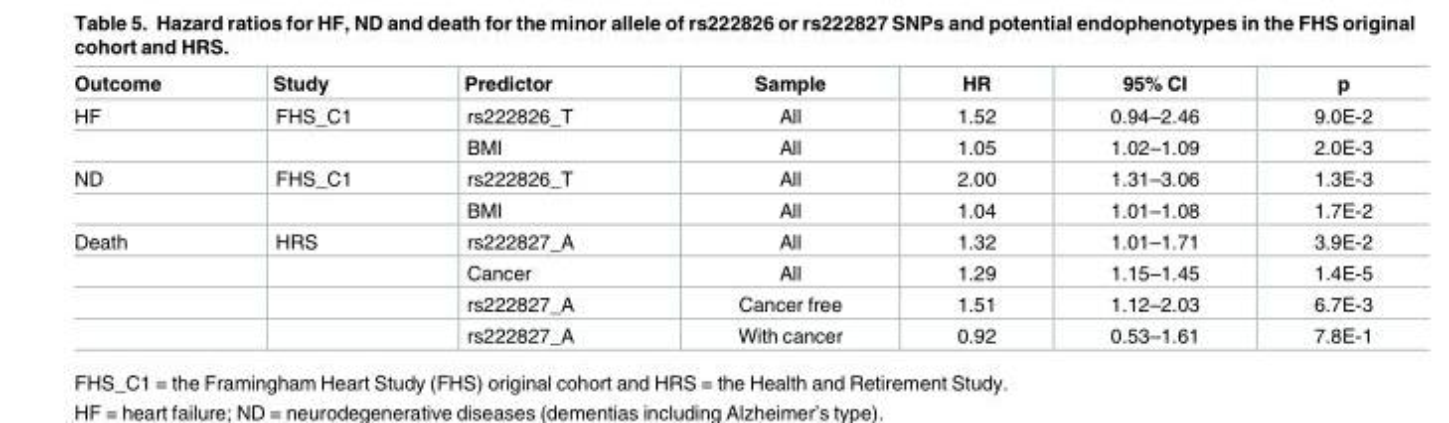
<table><thead><tr><td>Outcome</td><td>Study</td><td>Predictor</td><td>Sample</td><td>HR</td><td>95% CI</td><td>p</td></tr></thead><tbody><tr><td rowspan="2">HF</td><td>FHS_C1</td><td>rs222826_T</td><td>All</td><td>1.52</td><td>0.94–2.46</td><td>9.0E-2</td></tr><tr><td></td><td>BMI</td><td>All</td><td>1.05</td><td>1.02–1.09</td><td>2.0E-3</td></tr><tr><td rowspan="2">ND</td><td>FHS_C1</td><td>rs222826_T</td><td>All</td><td>2.00</td><td>1.31–3.06</td><td>1.3E-3</td></tr><tr><td></td><td>BMI</td><td>All</td><td>1.04</td><td>1.01–1.08</td><td>1.7E-2</td></tr><tr><td rowspan="4">Death</td><td>HRS</td><td>rs222827_A</td><td>All</td><td>1.32</td><td>1.01–1.71</td><td>3.9E-2</td></tr><tr><td></td><td>Cancer</td><td>All</td><td>1.29</td><td>1.15–1.45</td><td>1.4E-5</td></tr><tr><td></td><td>rs222827_A</td><td>Cancer free</td><td>1.51</td><td>1.12–2.03</td><td>6.7E-3</td></tr><tr><td></td><td>rs222827_A</td><td>With cancer</td><td>0.92</td><td>0.53–1.61</td><td>7.8E-1</td></tr></tbody></table>